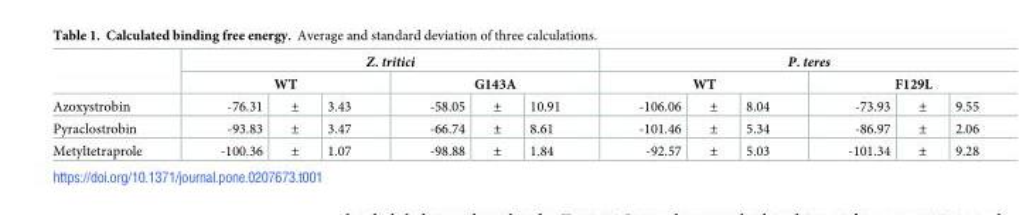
<table><thead><tr><td rowspan="3">Azoxystrobin</td><td colspan="6">Z. tritici</td><td colspan="6">P. teres</td></tr><tr><td colspan="3">WT</td><td colspan="3">G143A</td><td colspan="3">WT</td><td colspan="3">F129L</td></tr><tr><td>-76.31</td><td>±</td><td>3.43</td><td>-58.05</td><td>±</td><td>10.91</td><td>-106.06</td><td>±</td><td>8.04</td><td>-73.93</td><td>±</td><td>9.55</td></tr></thead><tbody><tr><td>Pyraclostrobin</td><td>-93.83</td><td>±</td><td>3.47</td><td>-66.74</td><td>±</td><td>8.61</td><td>-101.46</td><td>±</td><td>5.34</td><td>-86.97</td><td>±</td><td>2.06</td></tr><tr><td>Metyltetraprole</td><td>-100.36</td><td>±</td><td>1.07</td><td>-98.88</td><td>±</td><td>1.84</td><td>-92.57</td><td>±</td><td>5.03</td><td>-101.34</td><td>±</td><td>9.28</td></tr></tbody></table>